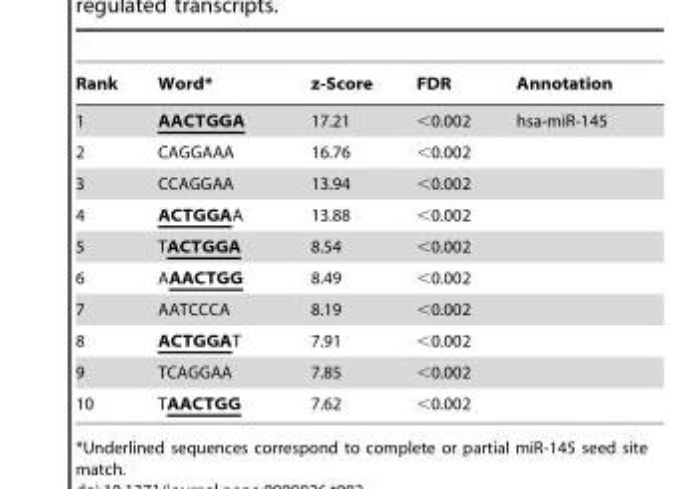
<table><thead><tr><td>Rank</td><td>Word*</td><td>z-Score</td><td>FDR</td><td>Annotation</td></tr></thead><tbody><tr><td>1</td><td>AACTGGA</td><td>17.21</td><td>&lt;0.002</td><td>hsa-miR-145</td></tr><tr><td>2</td><td>CAGGAAA</td><td>16.76</td><td>&lt;0.002</td><td></td></tr><tr><td>3</td><td>CCAGGAA</td><td>13.94</td><td>&lt;0.002</td><td></td></tr><tr><td>4</td><td>ACTGGAA</td><td>13.88</td><td>&lt;0.002</td><td></td></tr><tr><td>5</td><td>TACTGGA</td><td>8.54</td><td>&lt;0.002</td><td></td></tr><tr><td>6</td><td>AAACTGG</td><td>8.49</td><td>&lt;0.002</td><td></td></tr><tr><td>7</td><td>AATCCCA</td><td>8.19</td><td>&lt;0.002</td><td></td></tr><tr><td>8</td><td>ACTGGAT</td><td>7.91</td><td>&lt;0.002</td><td></td></tr><tr><td>9</td><td>TCAGGAA</td><td>7.85</td><td>&lt;0.002</td><td></td></tr><tr><td>10</td><td>TAACTGG</td><td>7.62</td><td>&lt;0.002</td><td></td></tr></tbody></table>